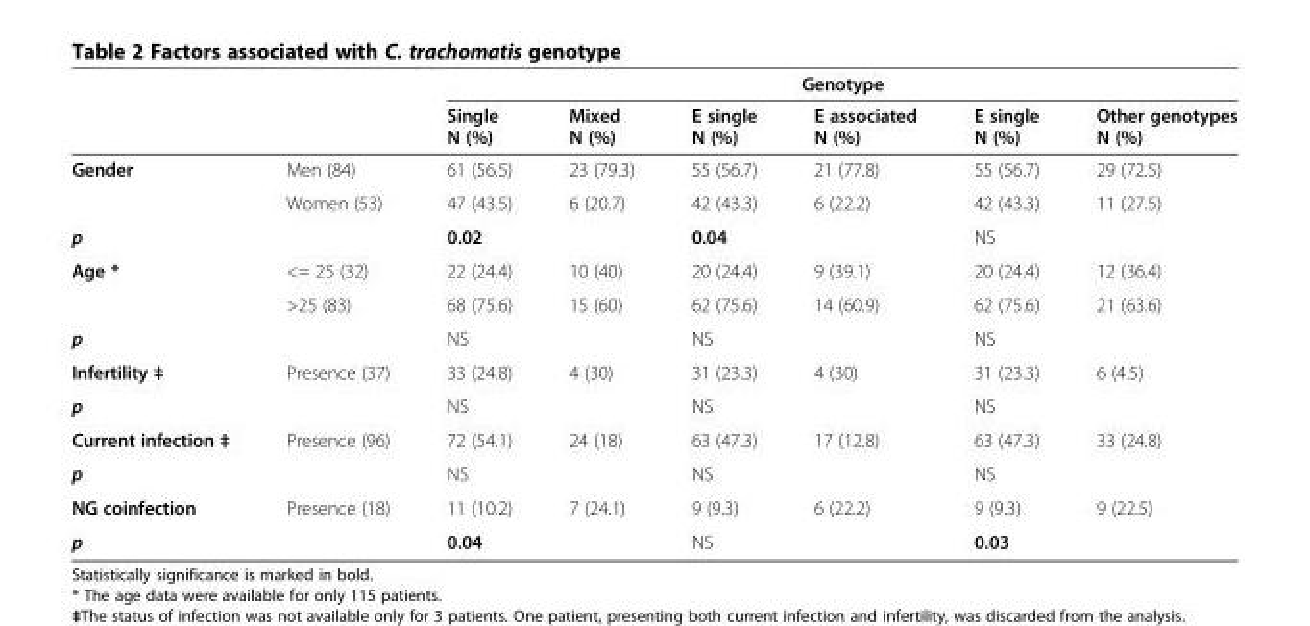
<table><thead><tr><td rowspan="2"></td><td rowspan="2"></td><td colspan="6">Genotype</td></tr><tr><td>Single N (%)</td><td>Mixed N (%)</td><td>E single N (%)</td><td>E associated N (%)</td><td>E single N (%)</td><td>Other genotypes N (%)</td></tr></thead><tbody><tr><td rowspan="2">Gender</td><td>Men (84)</td><td>61 (56.5)</td><td>23 (79.3)</td><td>55 (56.7)</td><td>21 (77.8)</td><td>55 (56.7)</td><td>29 (72.5)</td></tr><tr><td>Women (53)</td><td>47 (43.5)</td><td>6 (20.7)</td><td>42 (43.3)</td><td>6 (22.2)</td><td>42 (43.3)</td><td>11 (27.5)</td></tr><tr><td>p</td><td></td><td colspan="2">0.02</td><td colspan="2">0.04</td><td colspan="2">NS</td></tr><tr><td rowspan="2">Age *</td><td>&lt;= 25 (32)</td><td>22 (24.4)</td><td>10 (40)</td><td>20 (24.4)</td><td>9 (39.1)</td><td>20 (24.4)</td><td>12 (36.4)</td></tr><tr><td>&gt;25 (83)</td><td>68 (75.6)</td><td>15 (60)</td><td>62 (75.6)</td><td>14 (60.9)</td><td>62 (75.6)</td><td>21 (63.6)</td></tr><tr><td>p</td><td></td><td colspan="2">NS</td><td colspan="2">NS</td><td colspan="2">NS</td></tr><tr><td>Infertility ‡</td><td>Presence (37)</td><td>33 (24.8)</td><td>4 (30)</td><td>31 (23.3)</td><td>4 (30)</td><td>31 (23.3)</td><td>6 (4.5)</td></tr><tr><td>p</td><td></td><td colspan="2">NS</td><td colspan="2">NS</td><td colspan="2">NS</td></tr><tr><td>Current infection ‡</td><td>Presence (96)</td><td>72 (54.1)</td><td>24 (18)</td><td>63 (47.3)</td><td>17 (12.8)</td><td>63 (47.3)</td><td>33 (24.8)</td></tr><tr><td>p</td><td></td><td colspan="2">NS</td><td colspan="2">NS</td><td colspan="2">NS</td></tr><tr><td>NG coinfection</td><td>Presence (18)</td><td>11 (10.2)</td><td>7 (24.1)</td><td>9 (9.3)</td><td>6 (22.2)</td><td>9 (9.3)</td><td>9 (22.5)</td></tr><tr><td>p</td><td></td><td colspan="2">0.04</td><td colspan="2">NS</td><td colspan="2">0.03</td></tr></tbody></table>